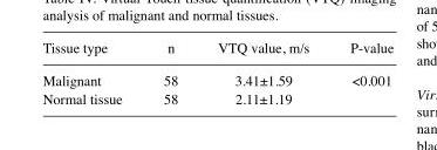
<table><thead><tr><td>Tissue type</td><td>n</td><td>VTQ value, m/s</td><td>P-value</td></tr></thead><tbody><tr><td>Malignant</td><td>58</td><td>3.41±1.59</td><td>&lt;0.001</td></tr><tr><td>Normal tissue</td><td>58</td><td>2.11±1.19</td><td></td></tr></tbody></table>